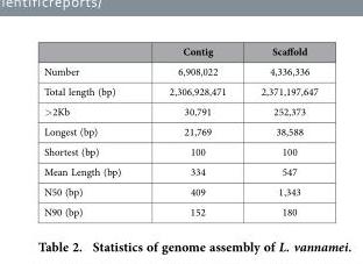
<table><thead><tr><td></td><td>Contig</td><td>Scaffold</td></tr></thead><tbody><tr><td>Number</td><td>6,908,022</td><td>4,336,336</td></tr><tr><td>Total length (bp)</td><td>2,306,928,471</td><td>2,371,197,647</td></tr><tr><td>&gt;2Kb</td><td>30,791</td><td>252,373</td></tr><tr><td>Longest (bp)</td><td>21,769</td><td>38,588</td></tr><tr><td>Shortest (bp)</td><td>100</td><td>100</td></tr><tr><td>Mean Length (bp)</td><td>334</td><td>547</td></tr><tr><td>N50 (bp)</td><td>409</td><td>1,343</td></tr><tr><td>N90 (bp)</td><td>152</td><td>180</td></tr></tbody></table>